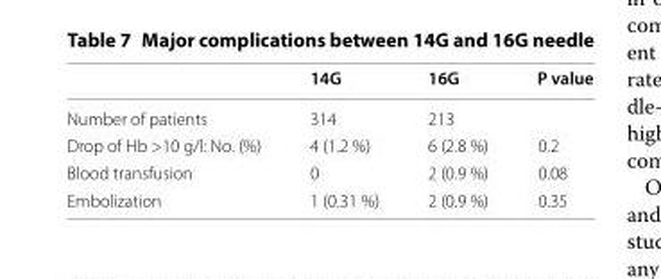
<table><thead><tr><td></td><td>14G</td><td>16G</td><td>P value</td></tr></thead><tbody><tr><td>Number of patients</td><td>314</td><td>213</td><td></td></tr><tr><td>Drop of Hb &gt;10 g/l: No. (%)</td><td>4 (1.2 %)</td><td>6 (2.8 %)</td><td>0.2</td></tr><tr><td>Blood transfusion</td><td>0</td><td>2 (0.9 %)</td><td>0.08</td></tr><tr><td>Embolization</td><td>1 (0.31 %)</td><td>2 (0.9 %)</td><td>0.35</td></tr></tbody></table>